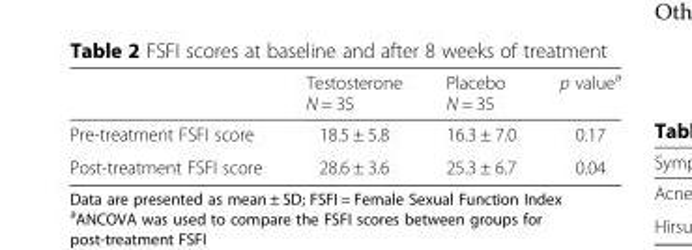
<table><thead><tr><td></td><td>Testosterone N = 35</td><td>Placebo N = 35</td><td>p value<sup>a</sup></td></tr></thead><tbody><tr><td>Pre-treatment FSFI score</td><td>18.5 ± 5.8</td><td>16.3 ± 7.0</td><td>0.17</td></tr><tr><td>Post-treatment FSFI score</td><td>28.6 ± 3.6</td><td>25.3 ± 6.7</td><td>0.04</td></tr></tbody></table>